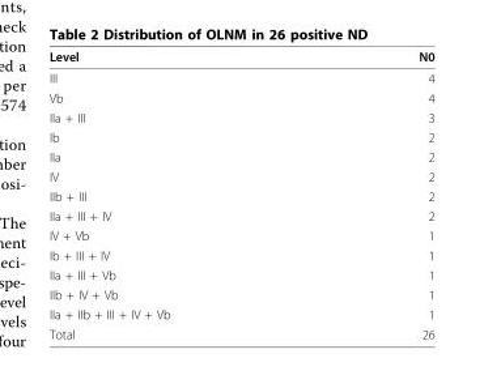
<table><thead><tr><td>Level</td><td>N0</td></tr></thead><tbody><tr><td>III</td><td>4</td></tr><tr><td>Vb</td><td>4</td></tr><tr><td>IIa + III</td><td>3</td></tr><tr><td>Ib</td><td>2</td></tr><tr><td>IIa</td><td>2</td></tr><tr><td>IV</td><td>2</td></tr><tr><td>IIb + III</td><td>2</td></tr><tr><td>IIa + III + IV</td><td>2</td></tr><tr><td>IV + Vb</td><td>1</td></tr><tr><td>Ib + III + IV</td><td>1</td></tr><tr><td>IIa + III + Vb</td><td>1</td></tr><tr><td>IIb + IV + Vb</td><td>1</td></tr><tr><td>IIa + IIb + III + IV + Vb</td><td>1</td></tr><tr><td>Total</td><td>26</td></tr></tbody></table>